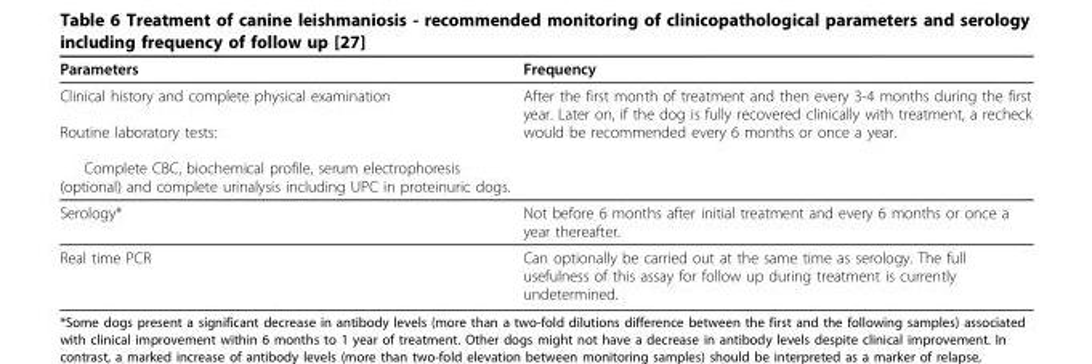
<table><thead><tr><td>Parameters</td><td>Frequency</td></tr></thead><tbody><tr><td>Clinical history and complete physical examination Routine laboratory tests: Complete CBC, biochemical profile, serum electrophoresis (optional) and complete urinalysis including UPC in proteinuric dogs.</td><td>After the first month of treatment and then every 3-4 months during the first year. Later on, if the dog is fully recovered clinically with treatment, a recheck would be recommended every 6 months or once a year.</td></tr><tr><td>Serology*</td><td>Not before 6 months after initial treatment and every 6 months or once a year thereafter.</td></tr><tr><td>Real time PCR</td><td>Can optionally be carried out at the same time as serology. The full usefulness of this assay for follow up during treatment is currently undetermined.</td></tr></tbody></table>